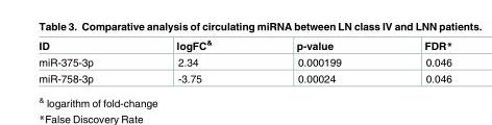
<table><thead><tr><td>ID</td><td>logFC<sup>&amp;</sup></td><td>p-value</td><td>FDR*</td></tr></thead><tbody><tr><td>miR-375-3p</td><td>2.34</td><td>0.000199</td><td>0.046</td></tr><tr><td>miR-758-3p</td><td>-3.75</td><td>0.00024</td><td>0.046</td></tr></tbody></table>